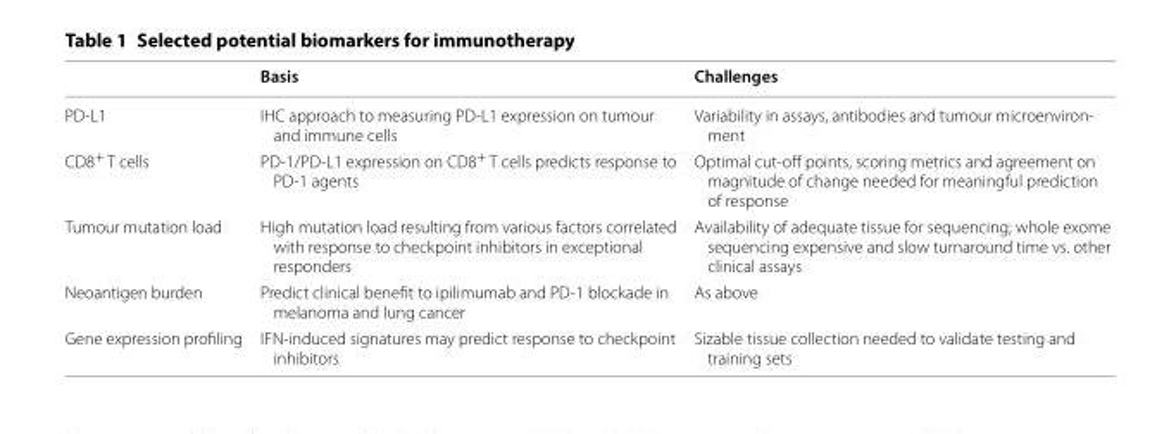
<table><thead><tr><td></td><td>Basis</td><td>Challenges</td></tr></thead><tbody><tr><td>PD-L1</td><td>IHC approach to measuring PD-L1 expression on tumour and immune cells</td><td>Variability in assays, antibodies and tumour microenviron- ment</td></tr><tr><td>CD8<sup>+</sup> T cells</td><td>PD-1/PD-L1 expression on CD8<sup>+</sup> T cells predicts response to PD-1 agents</td><td>Optimal cut-off points, scoring metrics and agreement on magnitude of change needed for meaningful prediction of response</td></tr><tr><td>Tumour mutation load</td><td>High mutation load resulting from various factors correlated with response to checkpoint inhibitors in exceptional responders</td><td>Availability of adequate tissue for sequencing; whole exome sequencing expensive and slow turnaround time vs. other clinical assays</td></tr><tr><td>Neoantigen burden</td><td>Predict clinical benefit to ipilimumab and PD-1 blockade in melanoma and lung cancer</td><td>As above</td></tr><tr><td>Gene expression profiling</td><td>IFN-induced signatures may predict response to checkpoint inhibitors</td><td>Sizable tissue collection needed to validate testing and training sets</td></tr></tbody></table>